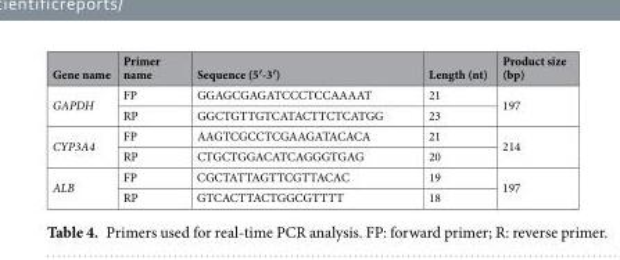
<table><thead><tr><td>Gene name</td><td>Primer name</td><td>Sequence (5′-3′)</td><td>Length (nt)</td><td>Product size (bp)</td></tr></thead><tbody><tr><td rowspan="2">GAPDH</td><td>FP</td><td>GGAGCGAGATCCCTCCAAAAT</td><td>21</td><td rowspan="2">197</td></tr><tr><td>RP</td><td>GGCTGTTGTCATACTTCTCATGG</td><td>23</td></tr><tr><td rowspan="2">CYP3A4</td><td>FP</td><td>AAGTCGCCTCGAAGATACACA</td><td>21</td><td rowspan="2">214</td></tr><tr><td>RP</td><td>CTGCTGGACATCAGGGTGAG</td><td>20</td></tr><tr><td rowspan="2">ALB</td><td>FP</td><td>CGCTATTAGTTCGTTACAC</td><td>19</td><td rowspan="2">197</td></tr><tr><td>RP</td><td>GTCACTTACTGGCGTTTT</td><td>18</td></tr></tbody></table>